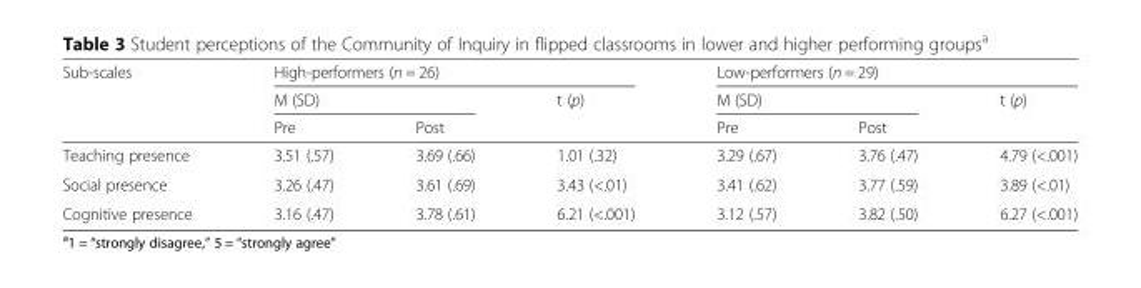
<table><thead><tr><td rowspan="3">Sub-scales</td><td colspan="3">High-performers (n = 26)</td><td colspan="3">Low-performers (n = 29)</td></tr><tr><td colspan="2">M (SD)</td><td rowspan="2">t (p)</td><td colspan="2">M (SD)</td><td rowspan="2">t (p)</td></tr><tr><td>Pre</td><td>Post</td><td>Pre</td><td>Post</td></tr></thead><tbody><tr><td>Teaching presence</td><td>3.51 (.57)</td><td>3.69 (.66)</td><td>1.01 (.32)</td><td>3.29 (.67)</td><td>3.76 (.47)</td><td>4.79 (&lt;.001)</td></tr><tr><td>Social presence</td><td>3.26 (.47)</td><td>3.61 (.69)</td><td>3.43 (&lt;.01)</td><td>3.41 (.62)</td><td>3.77 (.59)</td><td>3.89 (&lt;.01)</td></tr><tr><td>Cognitive presence</td><td>3.16 (.47)</td><td>3.78 (.61)</td><td>6.21 (&lt;.001)</td><td>3.12 (.57)</td><td>3.82 (.50)</td><td>6.27 (&lt;.001)</td></tr></tbody></table>